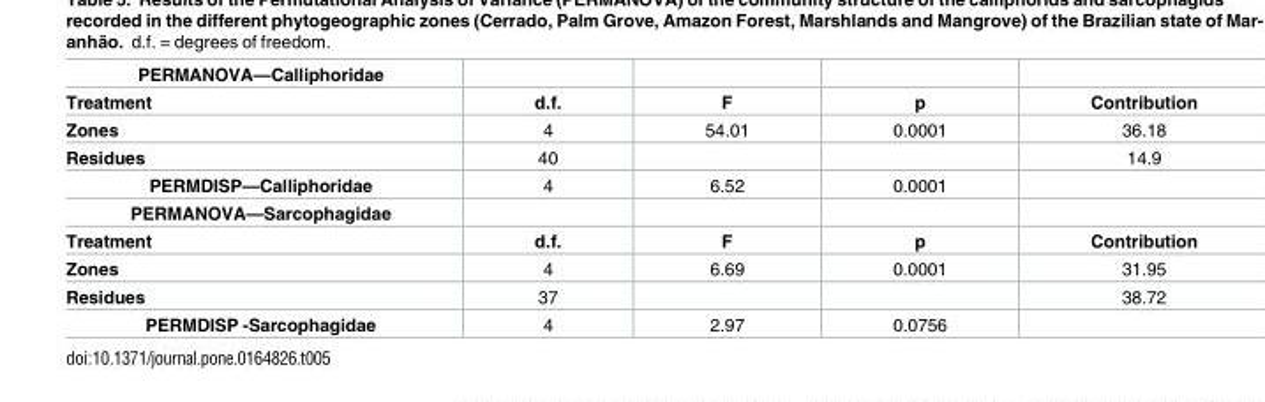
<table><tbody><tr><td colspan="5">PERMANOVA—Calliphoridae</td></tr><tr><td>Treatment</td><td>d.f.</td><td>F</td><td>p</td><td>Contribution</td></tr><tr><td>Zones</td><td>4</td><td>54.01</td><td>0.0001</td><td>36.18</td></tr><tr><td>Residues</td><td>40</td><td></td><td></td><td>14.9</td></tr><tr><td>PERMDISP—Calliphoridae</td><td>4</td><td>6.52</td><td>0.0001</td><td></td></tr><tr><td colspan="5">PERMANOVA—Sarcophagidae</td></tr><tr><td>Treatment</td><td>d.f.</td><td>F</td><td>p</td><td>Contribution</td></tr><tr><td>Zones</td><td>4</td><td>6.69</td><td>0.0001</td><td>31.95</td></tr><tr><td>Residues</td><td>37</td><td></td><td></td><td>38.72</td></tr><tr><td>PERMDISP -Sarcophagidae</td><td>4</td><td>2.97</td><td>0.0756</td><td></td></tr></tbody></table>